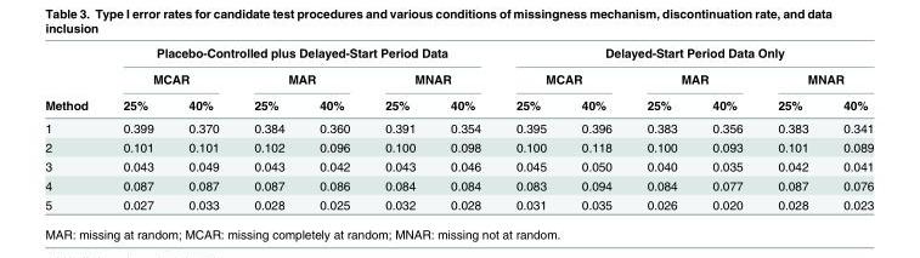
<table><thead><tr><td rowspan="3">Method</td><td colspan="6">Placebo-Controlled plus Delayed-Start Period Data</td><td colspan="6">Delayed-Start Period Data Only</td></tr><tr><td colspan="2">MCAR</td><td colspan="2">MAR</td><td colspan="2">MNAR</td><td colspan="2">MCAR</td><td colspan="2">MAR</td><td colspan="2">MNAR</td></tr><tr><td>25%</td><td>40%</td><td>25%</td><td>40%</td><td>25%</td><td>40%</td><td>25%</td><td>40%</td><td>25%</td><td>40%</td><td>25%</td><td>40%</td></tr></thead><tbody><tr><td>1</td><td>0.399</td><td>0.370</td><td>0.384</td><td>0.360</td><td>0.391</td><td>0.354</td><td>0.395</td><td>0.396</td><td>0.383</td><td>0.356</td><td>0.383</td><td>0.341</td></tr><tr><td>2</td><td>0.101</td><td>0.101</td><td>0.102</td><td>0.096</td><td>0.100</td><td>0.098</td><td>0.100</td><td>0.118</td><td>0.100</td><td>0.093</td><td>0.101</td><td>0.089</td></tr><tr><td>3</td><td>0.043</td><td>0.049</td><td>0.043</td><td>0.042</td><td>0.043</td><td>0.046</td><td>0.045</td><td>0.050</td><td>0.040</td><td>0.035</td><td>0.042</td><td>0.041</td></tr><tr><td>4</td><td>0.087</td><td>0.087</td><td>0.087</td><td>0.086</td><td>0.084</td><td>0.084</td><td>0.083</td><td>0.094</td><td>0.084</td><td>0.077</td><td>0.087</td><td>0.076</td></tr><tr><td>5</td><td>0.027</td><td>0.033</td><td>0.028</td><td>0.025</td><td>0.032</td><td>0.028</td><td>0.031</td><td>0.035</td><td>0.026</td><td>0.020</td><td>0.028</td><td>0.023</td></tr></tbody></table>